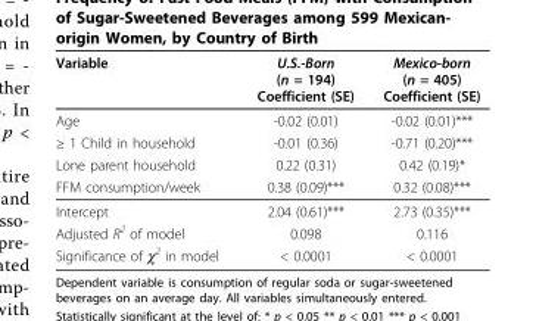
<table><thead><tr><td>Variable</td><td>U.S.-Born (n = 194) Coefficient (SE)</td><td>Mexico-born (n = 405) Coefficient (SE)</td></tr></thead><tbody><tr><td>Age</td><td>-0.02 (0.01)</td><td>-0.02 (0.01)***</td></tr><tr><td>≥ 1 Child in household</td><td>-0.01 (0.36)</td><td>-0.71 (0.20)***</td></tr><tr><td>Lone parent household</td><td>0.22 (0.31)</td><td>0.42 (0.19)*</td></tr><tr><td>FFM consumption/week</td><td>0.38 (0.09)***</td><td>0.32 (0.08)***</td></tr><tr><td>Intercept</td><td>2.04 (0.61)***</td><td>2.73 (0.35)***</td></tr><tr><td>Adjusted R<sup>2</sup> of model</td><td>0.098</td><td>0.116</td></tr><tr><td>Significance of χ<sup>2</sup> in model</td><td>&lt; 0.0001</td><td>&lt; 0.0001</td></tr></tbody></table>